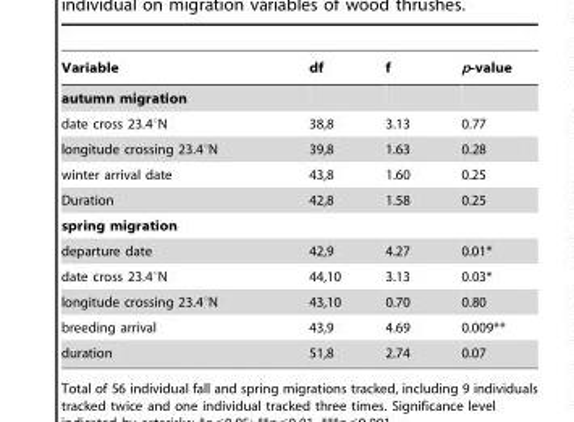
<table><thead><tr><td>Variable</td><td>df</td><td>f</td><td>p-value</td></tr></thead><tbody><tr><td colspan="4">autumn migration</td></tr><tr><td>date cross 23.4°N</td><td>38,8</td><td>3.13</td><td>0.77</td></tr><tr><td>longitude crossing 23.4°N</td><td>39,8</td><td>1.63</td><td>0.28</td></tr><tr><td>winter arrival date</td><td>43,8</td><td>1.60</td><td>0.25</td></tr><tr><td>Duration</td><td>42,8</td><td>1.58</td><td>0.25</td></tr><tr><td colspan="4">spring migration</td></tr><tr><td>departure date</td><td>42,9</td><td>4.27</td><td>0.01*</td></tr><tr><td>date cross 23.4°N</td><td>44,10</td><td>3.13</td><td>0.03*</td></tr><tr><td>longitude crossing 23.4°N</td><td>43,10</td><td>0.70</td><td>0.80</td></tr><tr><td>breeding arrival</td><td>43,9</td><td>4.69</td><td>0.009**</td></tr><tr><td>duration</td><td>51,8</td><td>2.74</td><td>0.07</td></tr></tbody></table>